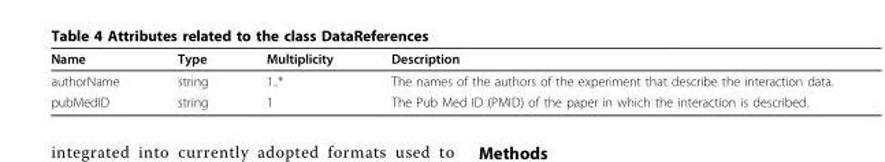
<table><thead><tr><td>Name</td><td>Type</td><td>Multiplicity</td><td>Description</td></tr></thead><tbody><tr><td>authorName</td><td>string</td><td>1..*</td><td>The names of the authors of the experiment that describe the interaction data.</td></tr><tr><td>pubMedID</td><td>string</td><td>1</td><td>The Pub Med ID (PMID) of the paper in which the interaction is described.</td></tr></tbody></table>